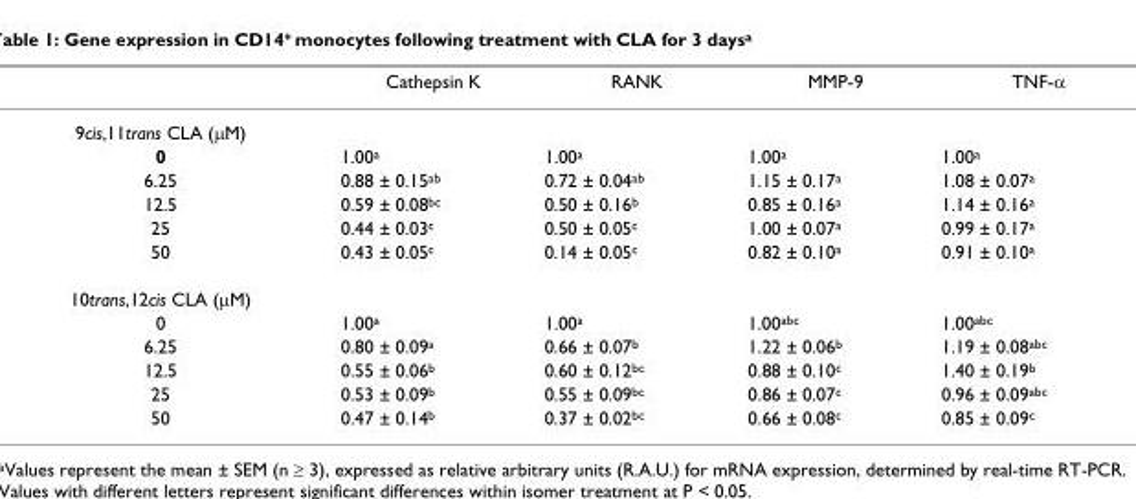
<table><thead><tr><td></td><td>Cathepsin K</td><td>RANK</td><td>MMP-9</td><td>TNF-α</td></tr></thead><tbody><tr><td colspan="5">9cis,11trans CLA (μM)</td></tr><tr><td>0</td><td>1.00<sup>a</sup></td><td>1.00<sup>a</sup></td><td>1.00<sup>a</sup></td><td>1.00<sup>a</sup></td></tr><tr><td>6.25</td><td>0.88 ± 0.15<sup>ab</sup></td><td>0.72 ± 0.04<sup>ab</sup></td><td>1.15 ± 0.17<sup>a</sup></td><td>1.08 ± 0.07<sup>a</sup></td></tr><tr><td>12.5</td><td>0.59 ± 0.08<sup>bc</sup></td><td>0.50 ± 0.16<sup>b</sup></td><td>0.85 ± 0.16<sup>a</sup></td><td>1.14 ± 0.16<sup>a</sup></td></tr><tr><td>25</td><td>0.44 ± 0.03<sup>c</sup></td><td>0.50 ± 0.05<sup>c</sup></td><td>1.00 ± 0.07<sup>a</sup></td><td>0.99 ± 0.17<sup>a</sup></td></tr><tr><td>50</td><td>0.43 ± 0.05<sup>c</sup></td><td>0.14 ± 0.05<sup>c</sup></td><td>0.82 ± 0.10<sup>a</sup></td><td>0.91 ± 0.10<sup>a</sup></td></tr><tr><td colspan="5">10trans,12cis CLA (μM)</td></tr><tr><td>0</td><td>1.00<sup>a</sup></td><td>1.00<sup>a</sup></td><td>1.00<sup>abc</sup></td><td>1.00<sup>abc</sup></td></tr><tr><td>6.25</td><td>0.80 ± 0.09<sup>a</sup></td><td>0.66 ± 0.07<sup>b</sup></td><td>1.22 ± 0.06<sup>b</sup></td><td>1.19 ± 0.08<sup>abc</sup></td></tr><tr><td>12.5</td><td>0.55 ± 0.06<sup>b</sup></td><td>0.60 ± 0.12<sup>bc</sup></td><td>0.88 ± 0.10<sup>c</sup></td><td>1.40 ± 0.19<sup>b</sup></td></tr><tr><td>25</td><td>0.53 ± 0.09<sup>b</sup></td><td>0.55 ± 0.09<sup>bc</sup></td><td>0.86 ± 0.07<sup>c</sup></td><td>0.96 ± 0.09<sup>abc</sup></td></tr><tr><td>50</td><td>0.47 ± 0.14<sup>b</sup></td><td>0.37 ± 0.02<sup>bc</sup></td><td>0.66 ± 0.08<sup>c</sup></td><td>0.85 ± 0.09<sup>c</sup></td></tr></tbody></table>